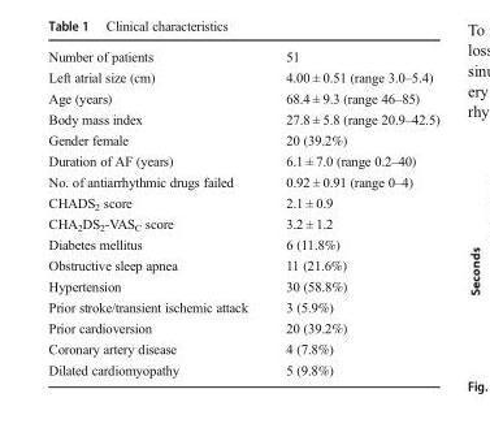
<table><tbody><tr><td>Number of patients</td><td>51</td></tr><tr><td>Left atrial size (cm)</td><td>4.00 ± 0.51 (range 3.0–5.4)</td></tr><tr><td>Age (years)</td><td>68.4 ± 9.3 (range 46–85)</td></tr><tr><td>Body mass index</td><td>27.8 ± 5.8 (range 20.9–42.5)</td></tr><tr><td>Gender female</td><td>20 (39.2%)</td></tr><tr><td>Duration of AF (years)</td><td>6.1 ± 7.0 (range 0.2–40)</td></tr><tr><td>No. of antiarrhythmic drugs failed</td><td>0.92 ± 0.91 (range 0–4)</td></tr><tr><td>CHADS<sub>2</sub> score</td><td>2.1 ± 0.9</td></tr><tr><td>CHA<sub>2</sub>DS<sub>2</sub>-VAS<sub>C</sub> score</td><td>3.2 ± 1.2</td></tr><tr><td>Diabetes mellitus</td><td>6 (11.8%)</td></tr><tr><td>Obstructive sleep apnea</td><td>11 (21.6%)</td></tr><tr><td>Hypertension</td><td>30 (58.8%)</td></tr><tr><td>Prior stroke/transient ischemic attack</td><td>3 (5.9%)</td></tr><tr><td>Prior cardioversion</td><td>20 (39.2%)</td></tr><tr><td>Coronary artery disease</td><td>4 (7.8%)</td></tr><tr><td>Dilated cardiomyopathy</td><td>5 (9.8%)</td></tr></tbody></table>